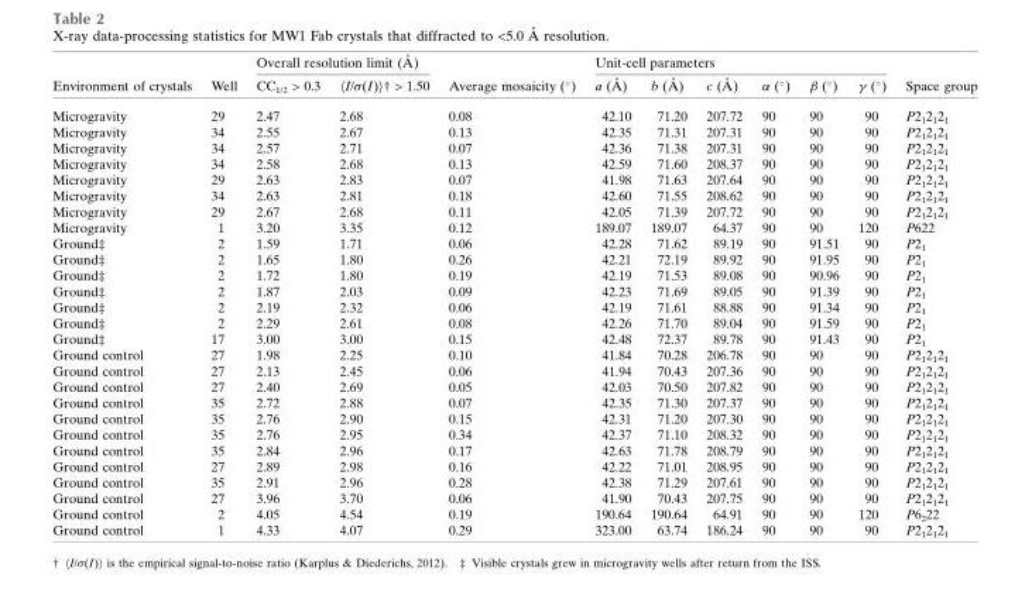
<table><thead><tr><td rowspan="2">Environment of crystals</td><td rowspan="2">Well</td><td colspan="2">Overall resolution limit (A˚ )</td><td rowspan="2">Average mosaicity (°)</td><td colspan="6">Unit-cell parameters</td><td rowspan="2">Space group</td></tr><tr><td>CC<sub>1/2</sub> &gt; 0.3</td><td>〈I/σ(I)〉† &gt; 1.50</td><td>a (A˚ )</td><td>b (A˚ )</td><td>c (A˚ )</td><td>α (°)</td><td>β (°)</td><td>γ (°)</td></tr></thead><tbody><tr><td>Microgravity</td><td>29</td><td>2.47</td><td>2.68</td><td>0.08</td><td>42.10</td><td>71.20</td><td>207.72</td><td>90</td><td>90</td><td>90</td><td>P2<sub>1</sub>2<sub>1</sub>2<sub>1</sub></td></tr><tr><td>Microgravity</td><td>34</td><td>2.55</td><td>2.67</td><td>0.13</td><td>42.35</td><td>71.31</td><td>207.31</td><td>90</td><td>90</td><td>90</td><td>P2<sub>1</sub>2<sub>1</sub>2<sub>1</sub></td></tr><tr><td>Microgravity</td><td>34</td><td>2.57</td><td>2.71</td><td>0.07</td><td>42.36</td><td>71.38</td><td>207.31</td><td>90</td><td>90</td><td>90</td><td>P2<sub>1</sub>2<sub>1</sub>2<sub>1</sub></td></tr><tr><td>Microgravity</td><td>34</td><td>2.58</td><td>2.68</td><td>0.13</td><td>42.59</td><td>71.60</td><td>208.37</td><td>90</td><td>90</td><td>90</td><td>P2<sub>1</sub>2<sub>1</sub>2<sub>1</sub></td></tr><tr><td>Microgravity</td><td>29</td><td>2.63</td><td>2.83</td><td>0.07</td><td>41.98</td><td>71.63</td><td>207.64</td><td>90</td><td>90</td><td>90</td><td>P2<sub>1</sub>2<sub>1</sub>2<sub>1</sub></td></tr><tr><td>Microgravity</td><td>34</td><td>2.63</td><td>2.81</td><td>0.18</td><td>42.60</td><td>71.55</td><td>208.62</td><td>90</td><td>90</td><td>90</td><td>P2<sub>1</sub>2<sub>1</sub>2<sub>1</sub></td></tr><tr><td>Microgravity</td><td>29</td><td>2.67</td><td>2.68</td><td>0.11</td><td>42.05</td><td>71.39</td><td>207.72</td><td>90</td><td>90</td><td>90</td><td>P2<sub>1</sub>2<sub>1</sub>2<sub>1</sub></td></tr><tr><td>Microgravity</td><td>1</td><td>3.20</td><td>3.35</td><td>0.12</td><td>189.07</td><td>189.07</td><td>64.37</td><td>90</td><td>90</td><td>120</td><td>P622</td></tr><tr><td>Ground‡</td><td>2</td><td>1.59</td><td>1.71</td><td>0.06</td><td>42.28</td><td>71.62</td><td>89.19</td><td>90</td><td>91.51</td><td>90</td><td>P2<sub>1</sub></td></tr><tr><td>Ground‡</td><td>2</td><td>1.65</td><td>1.80</td><td>0.26</td><td>42.21</td><td>72.19</td><td>89.92</td><td>90</td><td>91.95</td><td>90</td><td>P2<sub>1</sub></td></tr><tr><td>Ground‡</td><td>2</td><td>1.72</td><td>1.80</td><td>0.19</td><td>42.19</td><td>71.53</td><td>89.08</td><td>90</td><td>90.96</td><td>90</td><td>P2<sub>1</sub></td></tr><tr><td>Ground‡</td><td>2</td><td>1.87</td><td>2.03</td><td>0.09</td><td>42.23</td><td>71.69</td><td>89.05</td><td>90</td><td>91.39</td><td>90</td><td>P2<sub>1</sub></td></tr><tr><td>Ground‡</td><td>2</td><td>2.19</td><td>2.32</td><td>0.06</td><td>42.19</td><td>71.61</td><td>88.88</td><td>90</td><td>91.34</td><td>90</td><td>P2<sub>1</sub></td></tr><tr><td>Ground‡</td><td>2</td><td>2.29</td><td>2.61</td><td>0.08</td><td>42.26</td><td>71.70</td><td>89.04</td><td>90</td><td>91.59</td><td>90</td><td>P2<sub>1</sub></td></tr><tr><td>Ground‡</td><td>17</td><td>3.00</td><td>3.00</td><td>0.15</td><td>42.48</td><td>72.37</td><td>89.78</td><td>90</td><td>91.43</td><td>90</td><td>P2<sub>1</sub></td></tr><tr><td>Ground control</td><td>27</td><td>1.98</td><td>2.25</td><td>0.10</td><td>41.84</td><td>70.28</td><td>206.78</td><td>90</td><td>90</td><td>90</td><td>P2<sub>1</sub>2<sub>1</sub>2<sub>1</sub></td></tr><tr><td>Ground control</td><td>27</td><td>2.13</td><td>2.45</td><td>0.06</td><td>41.94</td><td>70.43</td><td>207.36</td><td>90</td><td>90</td><td>90</td><td>P2<sub>1</sub>2<sub>1</sub>2<sub>1</sub></td></tr><tr><td>Ground control</td><td>27</td><td>2.40</td><td>2.69</td><td>0.05</td><td>42.03</td><td>70.50</td><td>207.82</td><td>90</td><td>90</td><td>90</td><td>P2<sub>1</sub>2<sub>1</sub>2<sub>1</sub></td></tr><tr><td>Ground control</td><td>35</td><td>2.72</td><td>2.88</td><td>0.07</td><td>42.35</td><td>71.30</td><td>207.37</td><td>90</td><td>90</td><td>90</td><td>P2<sub>1</sub>2<sub>1</sub>2<sub>1</sub></td></tr><tr><td>Ground control</td><td>35</td><td>2.76</td><td>2.90</td><td>0.15</td><td>42.31</td><td>71.20</td><td>207.30</td><td>90</td><td>90</td><td>90</td><td>P2<sub>1</sub>2<sub>1</sub>2<sub>1</sub></td></tr><tr><td>Ground control</td><td>35</td><td>2.76</td><td>2.95</td><td>0.34</td><td>42.37</td><td>71.10</td><td>208.32</td><td>90</td><td>90</td><td>90</td><td>P2<sub>1</sub>2<sub>1</sub>2<sub>1</sub></td></tr><tr><td>Ground control</td><td>35</td><td>2.84</td><td>2.96</td><td>0.17</td><td>42.63</td><td>71.78</td><td>208.79</td><td>90</td><td>90</td><td>90</td><td>P2<sub>1</sub>2<sub>1</sub>2<sub>1</sub></td></tr><tr><td>Ground control</td><td>27</td><td>2.89</td><td>2.98</td><td>0.16</td><td>42.22</td><td>71.01</td><td>208.95</td><td>90</td><td>90</td><td>90</td><td>P2<sub>1</sub>2<sub>1</sub>2<sub>1</sub></td></tr><tr><td>Ground control</td><td>35</td><td>2.91</td><td>2.96</td><td>0.28</td><td>42.38</td><td>71.29</td><td>207.61</td><td>90</td><td>90</td><td>90</td><td>P2<sub>1</sub>2<sub>1</sub>2<sub>1</sub></td></tr><tr><td>Ground control</td><td>27</td><td>3.96</td><td>3.70</td><td>0.06</td><td>41.90</td><td>70.43</td><td>207.75</td><td>90</td><td>90</td><td>90</td><td>P2<sub>1</sub>2<sub>1</sub>2<sub>1</sub></td></tr><tr><td>Ground control</td><td>2</td><td>4.05</td><td>4.54</td><td>0.19</td><td>190.64</td><td>190.64</td><td>64.91</td><td>90</td><td>90</td><td>120</td><td>P6<sub>2</sub>22</td></tr><tr><td>Ground control</td><td>1</td><td>4.33</td><td>4.07</td><td>0.29</td><td>323.00</td><td>63.74</td><td>186.24</td><td>90</td><td>90</td><td>90</td><td>P2<sub>1</sub>2<sub>1</sub>2<sub>1</sub></td></tr></tbody></table>